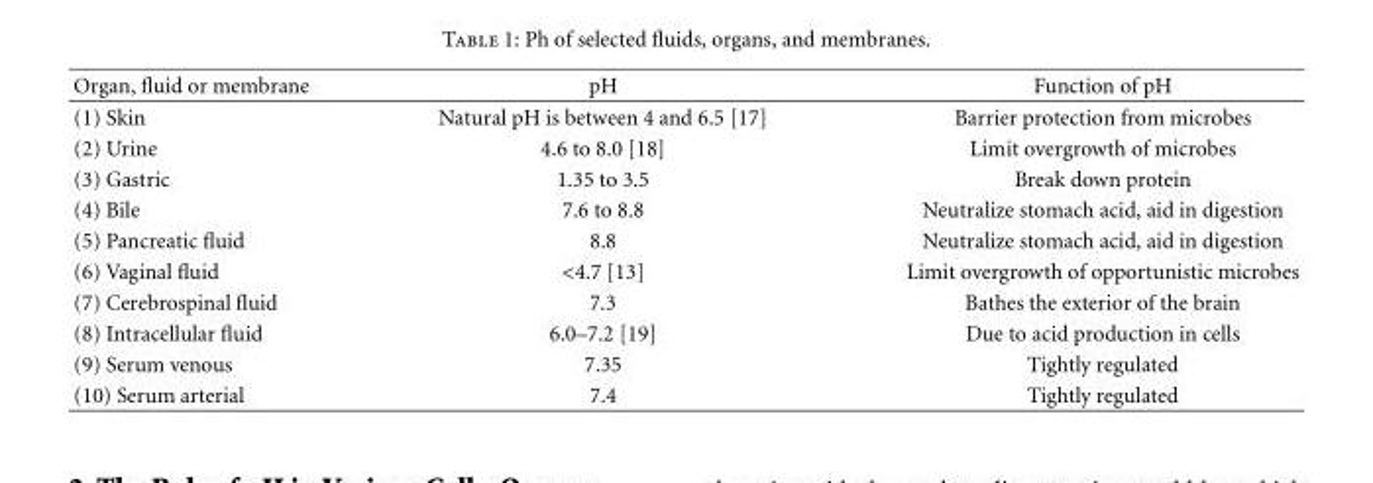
<table><thead><tr><td>Organ, fluid or membrane</td><td>pH</td><td>Function of pH</td></tr></thead><tbody><tr><td>(1) Skin</td><td>Natural pH is between 4 and 6.5 [17]</td><td>Barrier protection from microbes</td></tr><tr><td>(2) Urine</td><td>4.6 to 8.0 [18]</td><td>Limit overgrowth of microbes</td></tr><tr><td>(3) Gastric</td><td>1.35 to 3.5</td><td>Break down protein</td></tr><tr><td>(4) Bile</td><td>7.6 to 8.8</td><td>Neutralize stomach acid, aid in digestion</td></tr><tr><td>(5) Pancreatic fluid</td><td>8.8</td><td>Neutralize stomach acid, aid in digestion</td></tr><tr><td>(6) Vaginal fluid</td><td>&lt;4.7 [13]</td><td>Limit overgrowth of opportunistic microbes</td></tr><tr><td>(7) Cerebrospinal fluid</td><td>7.3</td><td>Bathes the exterior of the brain</td></tr><tr><td>(8) Intracellular fluid</td><td>6.0–7.2 [19]</td><td>Due to acid production in cells</td></tr><tr><td>(9) Serum venous</td><td>7.35</td><td>Tightly regulated</td></tr><tr><td>(10) Serum arterial</td><td>7.4</td><td>Tightly regulated</td></tr></tbody></table>